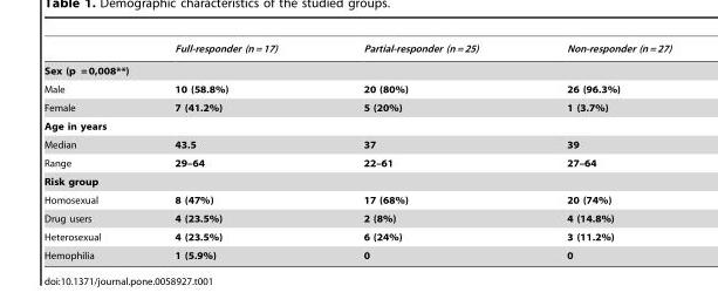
<table><thead><tr><td></td><td>Full-responder (n = 17)</td><td>Partial-responder (n = 25)</td><td>Non-responder (n = 27)</td></tr></thead><tbody><tr><td colspan="4">Sex (p = 0,008**)</td></tr><tr><td>Male</td><td>10 (58.8%)</td><td>20 (80%)</td><td>26 (96.3%)</td></tr><tr><td>Female</td><td>7 (41.2%)</td><td>5 (20%)</td><td>1 (3.7%)</td></tr><tr><td colspan="4">Age in years</td></tr><tr><td>Median</td><td>43.5</td><td>37</td><td>39</td></tr><tr><td>Range</td><td>29–64</td><td>22–61</td><td>27–64</td></tr><tr><td colspan="4">Risk group</td></tr><tr><td>Homosexual</td><td>8 (47%)</td><td>17 (68%)</td><td>20 (74%)</td></tr><tr><td>Drug users</td><td>4 (23.5%)</td><td>2 (8%)</td><td>4 (14.8%)</td></tr><tr><td>Heterosexual</td><td>4 (23.5%)</td><td>6 (24%)</td><td>3 (11.2%)</td></tr><tr><td>Hemophilia</td><td>1 (5.9%)</td><td>0</td><td>0</td></tr></tbody></table>